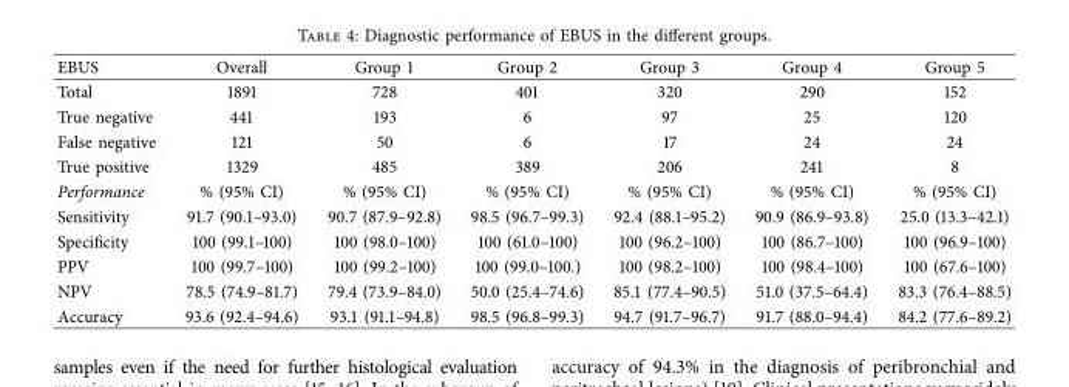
<table><thead><tr><td>EBUS</td><td>Overall</td><td>Group 1</td><td>Group 2</td><td>Group 3</td><td>Group 4</td><td>Group 5</td></tr></thead><tbody><tr><td>Total</td><td>1891</td><td>728</td><td>401</td><td>320</td><td>290</td><td>152</td></tr><tr><td>True negative</td><td>441</td><td>193</td><td>6</td><td>97</td><td>25</td><td>120</td></tr><tr><td>False negative</td><td>121</td><td>50</td><td>6</td><td>17</td><td>24</td><td>24</td></tr><tr><td>True positive</td><td>1329</td><td>485</td><td>389</td><td>206</td><td>241</td><td>8</td></tr><tr><td>Performance</td><td>% (95% CI)</td><td>% (95% CI)</td><td>% (95% CI)</td><td>% (95% CI)</td><td>% (95% CI)</td><td>% (95% CI)</td></tr><tr><td>Sensitivity</td><td>91.7 (90.1–93.0)</td><td>90.7 (87.9–92.8)</td><td>98.5 (96.7–99.3)</td><td>92.4 (88.1–95.2)</td><td>90.9 (86.9–93.8)</td><td>25.0 (13.3–42.1)</td></tr><tr><td>Specifcity</td><td>100 (99.1–100)</td><td>100 (98.0–100)</td><td>100 (61.0–100)</td><td>100 (96.2–100)</td><td>100 (86.7–100)</td><td>100 (96.9–100)</td></tr><tr><td>PPV</td><td>100 (99.7–100)</td><td>100 (99.2–100)</td><td>100 (99.0–100.)</td><td>100 (98.2–100)</td><td>100 (98.4–100)</td><td>100 (67.6–100)</td></tr><tr><td>NPV</td><td>78.5 (74.9–81.7)</td><td>79.4 (73.9–84.0)</td><td>50.0 (25.4–74.6)</td><td>85.1 (77.4–90.5)</td><td>51.0 (37.5–64.4)</td><td>83.3 (76.4–88.5)</td></tr><tr><td>Accuracy</td><td>93.6 (92.4–94.6)</td><td>93.1 (91.1–94.8)</td><td>98.5 (96.8–99.3)</td><td>94.7 (91.7–96.7)</td><td>91.7 (88.0–94.4)</td><td>84.2 (77.6–89.2)</td></tr></tbody></table>